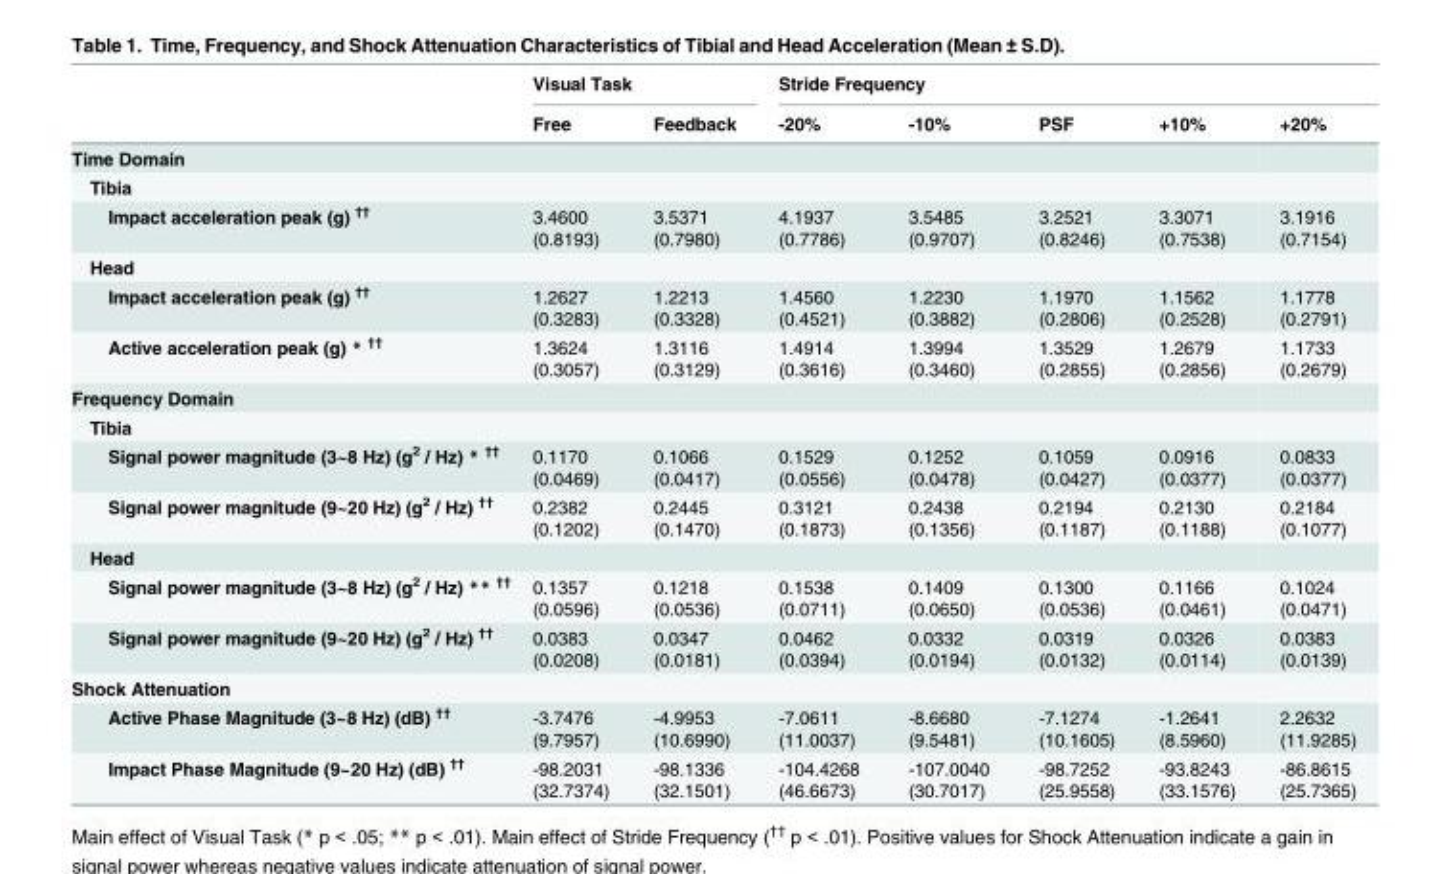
<table><thead><tr><td rowspan="2"></td><td colspan="2">Visual Task</td><td colspan="5">Stride Frequency</td></tr><tr><td>Free</td><td>Feedback</td><td>-20%</td><td>-10%</td><td>PSF</td><td>+10%</td><td>+20%</td></tr></thead><tbody><tr><td colspan="8">Time Domain</td></tr><tr><td colspan="8">Tibia</td></tr><tr><td>Impact acceleration peak (g) <sup>††</sup></td><td>3.4600 (0.8193)</td><td>3.5371 (0.7980)</td><td>4.1937 (0.7786)</td><td>3.5485 (0.9707)</td><td>3.2521 (0.8246)</td><td>3.3071 (0.7538)</td><td>3.1916 (0.7154)</td></tr><tr><td colspan="8">Head</td></tr><tr><td>Impact acceleration peak (g) <sup>††</sup></td><td>1.2627 (0.3283)</td><td>1.2213 (0.3328)</td><td>1.4560 (0.4521)</td><td>1.2230 (0.3882)</td><td>1.1970 (0.2806)</td><td>1.1562 (0.2528)</td><td>1.1778 (0.2791)</td></tr><tr><td>Active acceleration peak (g) * <sup>††</sup></td><td>1.3624 (0.3057)</td><td>1.3116 (0.3129)</td><td>1.4914 (0.3616)</td><td>1.3994 (0.3460)</td><td>1.3529 (0.2855)</td><td>1.2679 (0.2856)</td><td>1.1733 (0.2679)</td></tr><tr><td colspan="8">Frequency Domain</td></tr><tr><td colspan="8">Tibia</td></tr><tr><td>Signal power magnitude (3~8 Hz) (g<sup>2</sup> / Hz) * <sup>††</sup></td><td>0.1170 (0.0469)</td><td>0.1066 (0.0417)</td><td>0.1529 (0.0556)</td><td>0.1252 (0.0478)</td><td>0.1059 (0.0427)</td><td>0.0916 (0.0377)</td><td>0.0833 (0.0377)</td></tr><tr><td>Signal power magnitude (9~20 Hz) (g<sup>2</sup> / Hz) <sup>††</sup></td><td>0.2382 (0.1202)</td><td>0.2445 (0.1470)</td><td>0.3121 (0.1873)</td><td>0.2438 (0.1356)</td><td>0.2194 (0.1187)</td><td>0.2130 (0.1188)</td><td>0.2184 (0.1077)</td></tr><tr><td colspan="8">Head</td></tr><tr><td>Signal power magnitude (3~8 Hz) (g<sup>2</sup> / Hz) ** <sup>††</sup></td><td>0.1357 (0.0596)</td><td>0.1218 (0.0536)</td><td>0.1538 (0.0711)</td><td>0.1409 (0.0650)</td><td>0.1300 (0.0536)</td><td>0.1166 (0.0461)</td><td>0.1024 (0.0471)</td></tr><tr><td>Signal power magnitude (9~20 Hz) (g<sup>2</sup> / Hz) <sup>††</sup></td><td>0.0383 (0.0208)</td><td>0.0347 (0.0181)</td><td>0.0462 (0.0394)</td><td>0.0332 (0.0194)</td><td>0.0319 (0.0132)</td><td>0.0326 (0.0114)</td><td>0.0383 (0.0139)</td></tr><tr><td colspan="8">Shock Attenuation</td></tr><tr><td>Active Phase Magnitude (3~8 Hz) (dB) <sup>††</sup></td><td>-3.7476 (9.7957)</td><td>-4.9953 (10.6990)</td><td>-7.0611 (11.0037)</td><td>-8.6680 (9.5481)</td><td>-7.1274 (10.1605)</td><td>-1.2641 (8.5960)</td><td>2.2632 (11.9285)</td></tr><tr><td>Impact Phase Magnitude (9~20 Hz) (dB) <sup>††</sup></td><td>-98.2031 (32.7374)</td><td>-98.1336 (32.1501)</td><td>-104.4268 (46.6673)</td><td>-107.0040 (30.7017)</td><td>-98.7252 (25.9558)</td><td>-93.8243 (33.1576)</td><td>-86.8615 (25.7365)</td></tr></tbody></table>